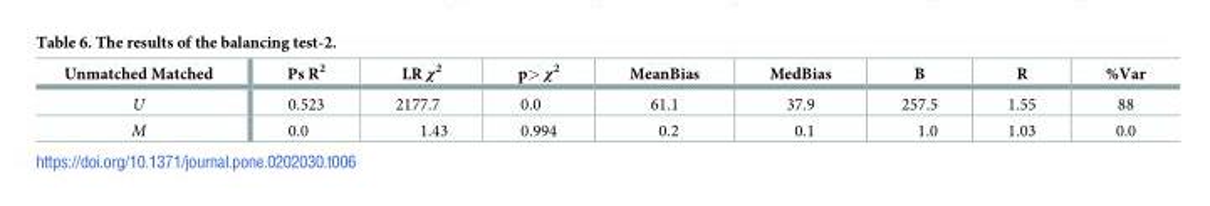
<table><thead><tr><td>Unmatched Matched</td><td>Ps R<sup>2</sup></td><td>LR χ<sup>2</sup></td><td>p&gt; χ<sup>2</sup></td><td>MeanBias</td><td>MedBias</td><td>B</td><td>R</td><td>%Var</td></tr></thead><tbody><tr><td>U</td><td>0.523</td><td>2177.7</td><td>0.0</td><td>61.1</td><td>37.9</td><td>257.5</td><td>1.55</td><td>88</td></tr><tr><td>M</td><td>0.0</td><td>1.43</td><td>0.994</td><td>0.2</td><td>0.1</td><td>1.0</td><td>1.03</td><td>0.0</td></tr></tbody></table>